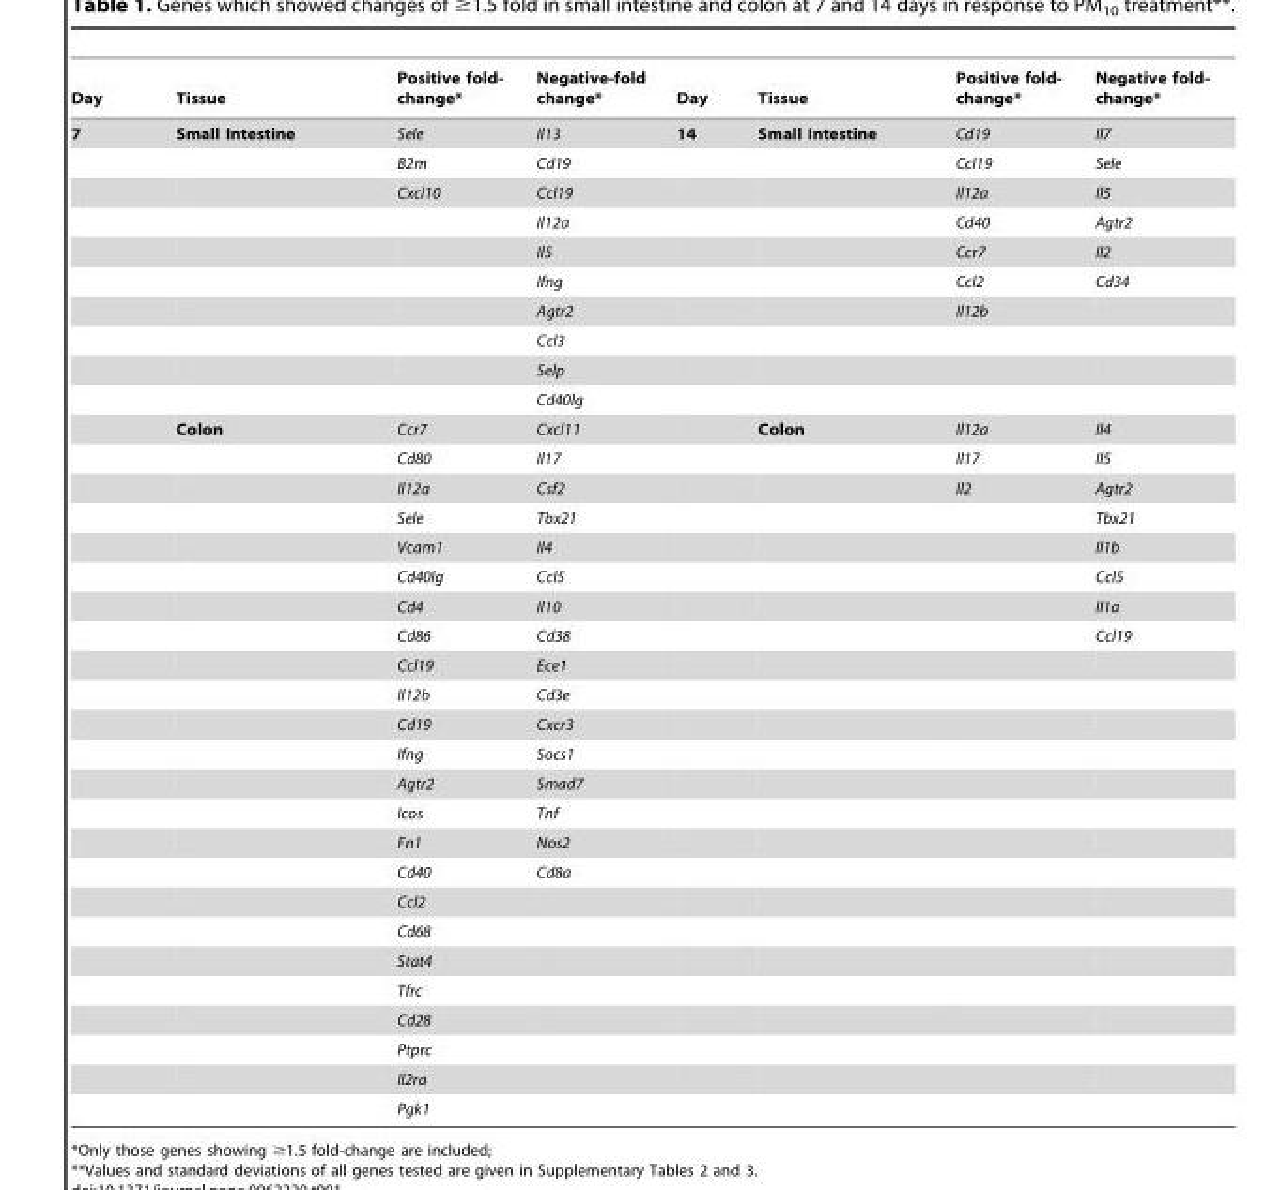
<table><thead><tr><td>Day</td><td>Tissue</td><td>Positive fold- change*</td><td>Negative-fold change*</td><td>Day</td><td>Tissue</td><td>Positive fold- change*</td><td>Negative fold- change*</td></tr></thead><tbody><tr><td rowspan="34">7</td><td>Small Intestine</td><td>Sele</td><td>Il13</td><td>14</td><td>Small Intestine</td><td>Cd19</td><td>Il7</td></tr><tr><td></td><td>B2m</td><td>Cd19</td><td></td><td></td><td>Ccl19</td><td>Sele</td></tr><tr><td></td><td>Cxcl10</td><td>Ccl19</td><td></td><td></td><td>Il12a</td><td>Il5</td></tr><tr><td></td><td></td><td>Il12a</td><td></td><td></td><td>Cd40</td><td>Agtr2</td></tr><tr><td></td><td></td><td>Il5</td><td></td><td></td><td>Ccr7</td><td>Il2</td></tr><tr><td></td><td></td><td>Ifng</td><td></td><td></td><td>Ccl2</td><td>Cd34</td></tr><tr><td></td><td></td><td>Agtr2</td><td></td><td></td><td>Il12b</td><td></td></tr><tr><td></td><td></td><td>Ccl3</td><td></td><td></td><td></td><td></td></tr><tr><td></td><td></td><td>Selp</td><td></td><td></td><td></td><td></td></tr><tr><td></td><td></td><td>Cd40lg</td><td></td><td></td><td></td><td></td></tr><tr><td>Colon</td><td>Ccr7</td><td>Cxcl11</td><td></td><td>Colon</td><td>Il12a</td><td>Il4</td></tr><tr><td></td><td>Cd80</td><td>Il17</td><td></td><td></td><td>Il17</td><td>Il5</td></tr><tr><td></td><td>Il12a</td><td>Csf2</td><td></td><td></td><td>Il2</td><td>Agtr2</td></tr><tr><td></td><td>Sele</td><td>Tbx21</td><td></td><td></td><td></td><td>Tbx21</td></tr><tr><td></td><td>Vcam1</td><td>Il4</td><td></td><td></td><td></td><td>Il1b</td></tr><tr><td></td><td>Cd40lg</td><td>Ccl5</td><td></td><td></td><td></td><td>Ccl5</td></tr><tr><td></td><td>Cd4</td><td>Il10</td><td></td><td></td><td></td><td>Il1a</td></tr><tr><td></td><td>Cd86</td><td>Cd38</td><td></td><td></td><td></td><td>Ccl19</td></tr><tr><td></td><td>Ccl19</td><td>Ece1</td><td></td><td></td><td></td><td></td></tr><tr><td></td><td>Il12b</td><td>Cd3e</td><td></td><td></td><td></td><td></td></tr><tr><td></td><td>Cd19</td><td>Cxcr3</td><td></td><td></td><td></td><td></td></tr><tr><td></td><td>Ifng</td><td>Socs1</td><td></td><td></td><td></td><td></td></tr><tr><td></td><td>Agtr2</td><td>Smad7</td><td></td><td></td><td></td><td></td></tr><tr><td></td><td>Icos</td><td>Tnf</td><td></td><td></td><td></td><td></td></tr><tr><td></td><td>Fn1</td><td>Nos2</td><td></td><td></td><td></td><td></td></tr><tr><td></td><td>Cd40</td><td>Cd8a</td><td></td><td></td><td></td><td></td></tr><tr><td></td><td>Ccl2</td><td></td><td></td><td></td><td></td><td></td></tr><tr><td></td><td>Cd68</td><td></td><td></td><td></td><td></td><td></td></tr><tr><td></td><td>Stat4</td><td></td><td></td><td></td><td></td><td></td></tr><tr><td></td><td>Tfrc</td><td></td><td></td><td></td><td></td><td></td></tr><tr><td></td><td>Cd28</td><td></td><td></td><td></td><td></td><td></td></tr><tr><td></td><td>Ptprc</td><td></td><td></td><td></td><td></td><td></td></tr><tr><td></td><td>Il2ra</td><td></td><td></td><td></td><td></td><td></td></tr><tr><td></td><td>Pgk1</td><td></td><td></td><td></td><td></td><td></td></tr></tbody></table>